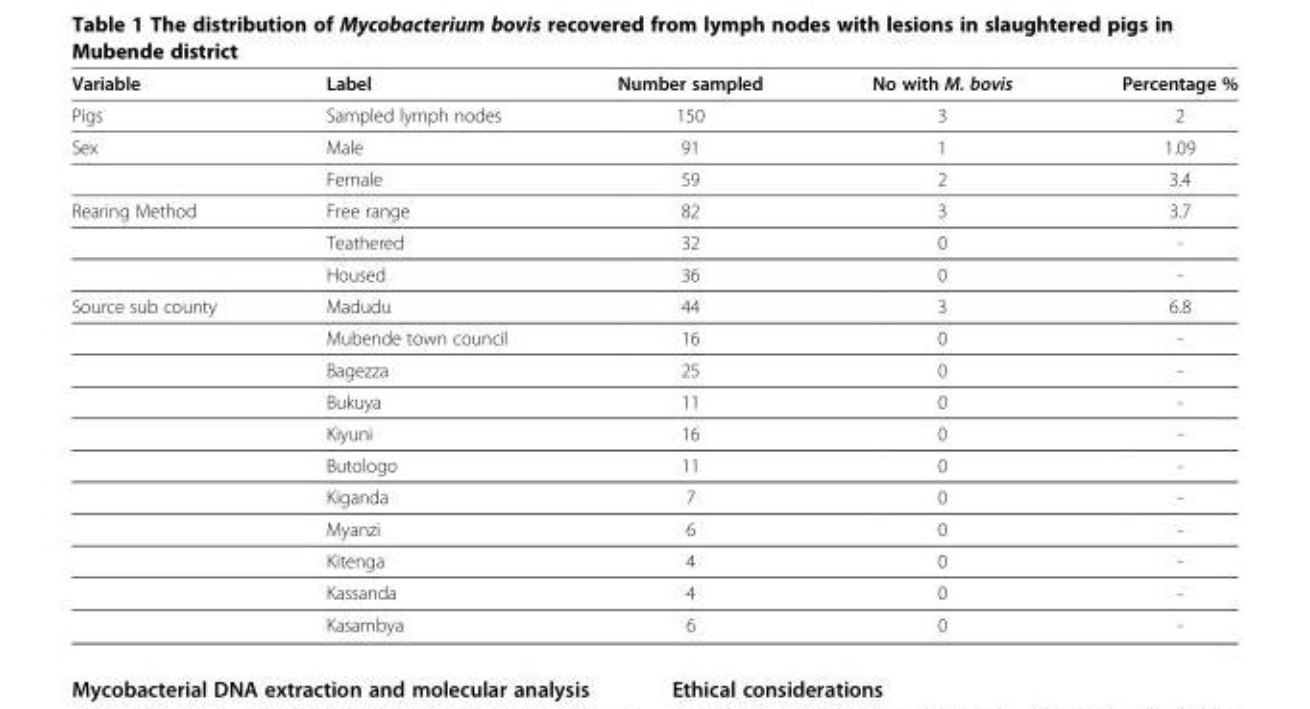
<table><thead><tr><td>Variable</td><td>Label</td><td>Number sampled</td><td>No with M. bovis</td><td>Percentage %</td></tr></thead><tbody><tr><td>Pigs</td><td>Sampled lymph nodes</td><td>150</td><td>3</td><td>2</td></tr><tr><td rowspan="2">Sex</td><td>Male</td><td>91</td><td>1</td><td>1.09</td></tr><tr><td>Female</td><td>59</td><td>2</td><td>3.4</td></tr><tr><td rowspan="3">Rearing Method</td><td>Free range</td><td>82</td><td>3</td><td>3.7</td></tr><tr><td>Teathered</td><td>32</td><td>0</td><td>-</td></tr><tr><td>Housed</td><td>36</td><td>0</td><td>-</td></tr><tr><td rowspan="11">Source sub county</td><td>Madudu</td><td>44</td><td>3</td><td>6.8</td></tr><tr><td>Mubende town council</td><td>16</td><td>0</td><td>-</td></tr><tr><td>Bagezza</td><td>25</td><td>0</td><td>-</td></tr><tr><td>Bukuya</td><td>11</td><td>0</td><td>-</td></tr><tr><td>Kiyuni</td><td>16</td><td>0</td><td>-</td></tr><tr><td>Butologo</td><td>11</td><td>0</td><td>-</td></tr><tr><td>Kiganda</td><td>7</td><td>0</td><td>-</td></tr><tr><td>Myanzi</td><td>6</td><td>0</td><td>-</td></tr><tr><td>Kitenga</td><td>4</td><td>0</td><td>-</td></tr><tr><td>Kassanda</td><td>4</td><td>0</td><td>-</td></tr><tr><td>Kasambya</td><td>6</td><td>0</td><td>-</td></tr></tbody></table>